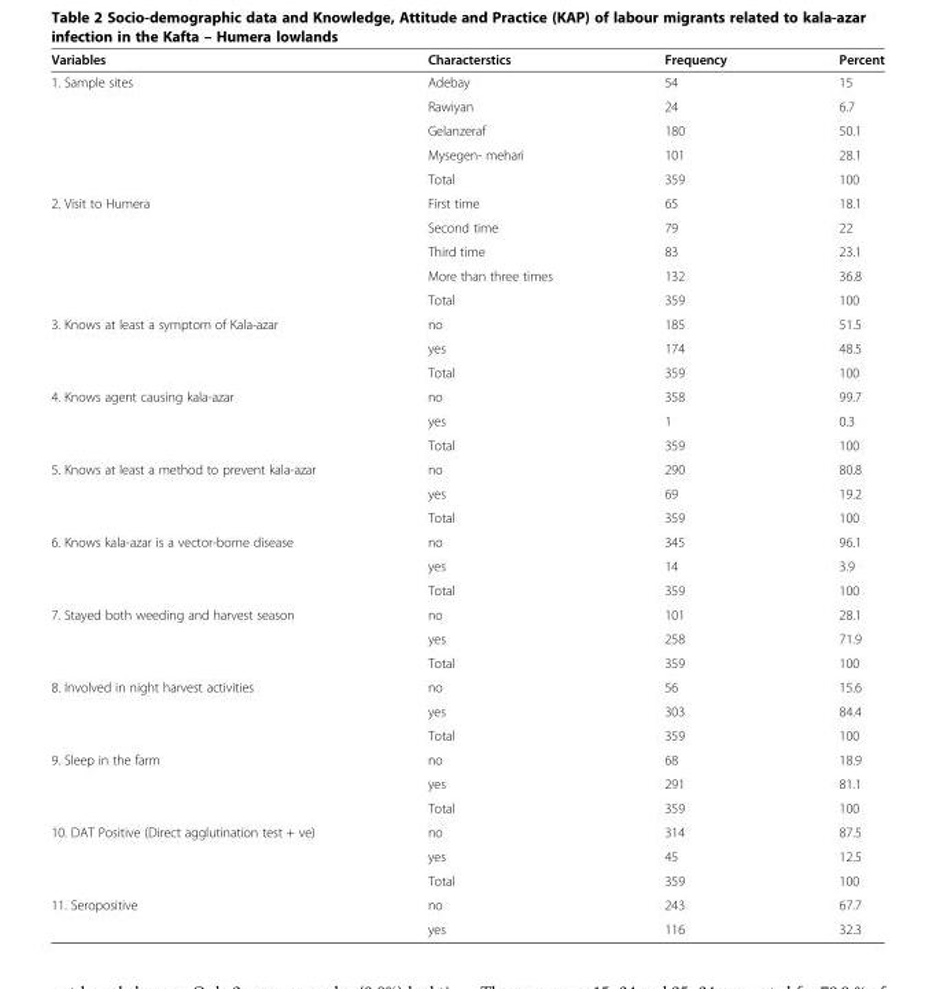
<table><thead><tr><td>Variables</td><td>Characterstics</td><td>Frequency</td><td>Percent</td></tr></thead><tbody><tr><td rowspan="5">1. Sample sites</td><td>Adebay</td><td>54</td><td>15</td></tr><tr><td>Rawiyan</td><td>24</td><td>6.7</td></tr><tr><td>Gelanzeraf</td><td>180</td><td>50.1</td></tr><tr><td>Mysegen- mehari</td><td>101</td><td>28.1</td></tr><tr><td>Total</td><td>359</td><td>100</td></tr><tr><td rowspan="5">2. Visit to Humera</td><td>First time</td><td>65</td><td>18.1</td></tr><tr><td>Second time</td><td>79</td><td>22</td></tr><tr><td>Third time</td><td>83</td><td>23.1</td></tr><tr><td>More than three times</td><td>132</td><td>36.8</td></tr><tr><td>Total</td><td>359</td><td>100</td></tr><tr><td rowspan="3">3. Knows at least a symptom of Kala-azar</td><td>no</td><td>185</td><td>51.5</td></tr><tr><td>yes</td><td>174</td><td>48.5</td></tr><tr><td>Total</td><td>359</td><td>100</td></tr><tr><td rowspan="3">4. Knows agent causing kala-azar</td><td>no</td><td>358</td><td>99.7</td></tr><tr><td>yes</td><td>1</td><td>0.3</td></tr><tr><td>Total</td><td>359</td><td>100</td></tr><tr><td rowspan="3">5. Knows at least a method to prevent kala-azar</td><td>no</td><td>290</td><td>80.8</td></tr><tr><td>yes</td><td>69</td><td>19.2</td></tr><tr><td>Total</td><td>359</td><td>100</td></tr><tr><td rowspan="3">6. Knows kala-azar is a vector-borne disease</td><td>no</td><td>345</td><td>96.1</td></tr><tr><td>yes</td><td>14</td><td>3.9</td></tr><tr><td>Total</td><td>359</td><td>100</td></tr><tr><td rowspan="3">7. Stayed both weeding and harvest season</td><td>no</td><td>101</td><td>28.1</td></tr><tr><td>yes</td><td>258</td><td>71.9</td></tr><tr><td>Total</td><td>359</td><td>100</td></tr><tr><td rowspan="3">8. Involved in night harvest activities</td><td>no</td><td>56</td><td>15.6</td></tr><tr><td>yes</td><td>303</td><td>84.4</td></tr><tr><td>Total</td><td>359</td><td>100</td></tr><tr><td rowspan="3">9. Sleep in the farm</td><td>no</td><td>68</td><td>18.9</td></tr><tr><td>yes</td><td>291</td><td>81.1</td></tr><tr><td>Total</td><td>359</td><td>100</td></tr><tr><td rowspan="3">10. DAT Positive (Direct agglutination test + ve)</td><td>no</td><td>314</td><td>87.5</td></tr><tr><td>yes</td><td>45</td><td>12.5</td></tr><tr><td>Total</td><td>359</td><td>100</td></tr><tr><td rowspan="2">11. Seropositive</td><td>no</td><td>243</td><td>67.7</td></tr><tr><td>yes</td><td>116</td><td>32.3</td></tr></tbody></table>